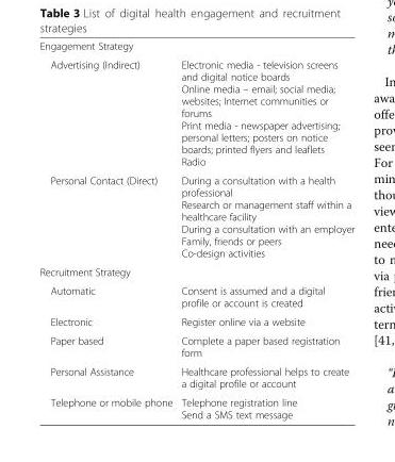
<table><tbody><tr><td colspan="2">Engagement Strategy</td></tr><tr><td>Advertising (Indirect)</td><td>Electronic media - television screens and digital notice boards Online media – email; social media; websites; Internet communities or forums Print media - newspaper advertising; personal letters; posters on notice boards; printed flyers and leaflets Radio</td></tr><tr><td>Personal Contact (Direct)</td><td>During a consultation with a health professional Research or management staff within a healthcare facility During a consultation with an employer Family, friends or peers Co-design activities</td></tr><tr><td colspan="2">Recruitment Strategy</td></tr><tr><td>Automatic</td><td>Consent is assumed and a digital profile or account is created</td></tr><tr><td>Electronic</td><td>Register online via a website</td></tr><tr><td>Paper based</td><td>Complete a paper based registration form</td></tr><tr><td>Personal Assistance</td><td>Healthcare professional helps to create a digital profile or account</td></tr><tr><td>Telephone or mobile phone</td><td>Telephone registration line Send a SMS text message</td></tr></tbody></table>